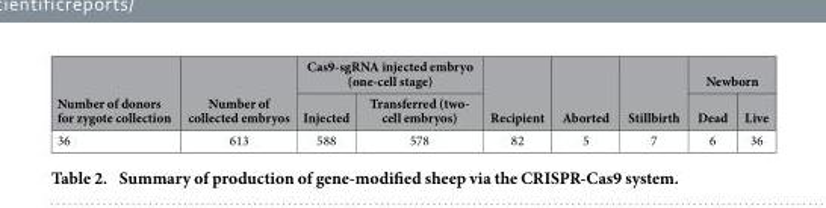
<table><thead><tr><td rowspan="2">Number of donors for zygote collection</td><td rowspan="2">Number of collected embryos</td><td colspan="2">Cas9-sgRNA injected embryo (one-cell stage)</td><td rowspan="2">Recipient</td><td rowspan="2">Aborted</td><td rowspan="2">Stillbirth</td><td colspan="2">Newborn</td></tr><tr><td>Injected</td><td>Transferred (two- cell embryos)</td><td>Dead</td><td>Live</td></tr></thead><tbody><tr><td>36</td><td>613</td><td>588</td><td>578</td><td>82</td><td>5</td><td>7</td><td>6</td><td>36</td></tr></tbody></table>